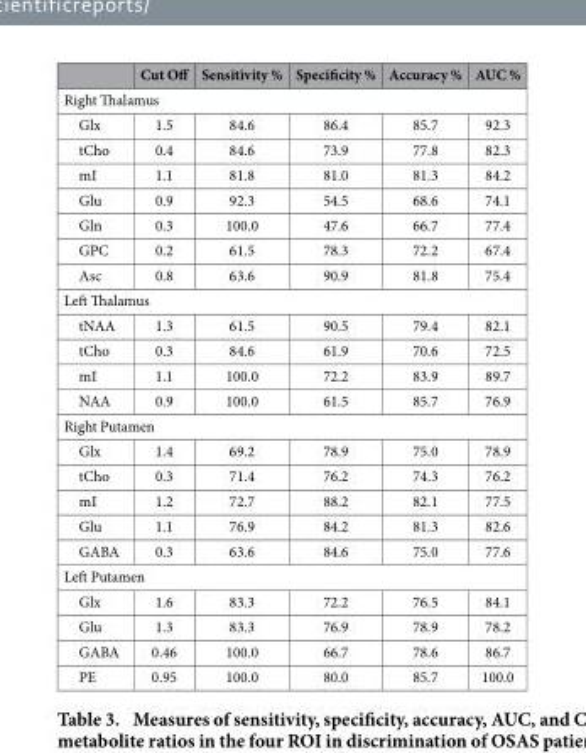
<table><thead><tr><td></td><td>Cut Off</td><td>Sensitivity %</td><td>Specificity %</td><td>Accuracy %</td><td>AUC %</td></tr></thead><tbody><tr><td colspan="6">Right Thalamus</td></tr><tr><td>Glx</td><td>1.5</td><td>84.6</td><td>86.4</td><td>85.7</td><td>92.3</td></tr><tr><td>tCho</td><td>0.4</td><td>84.6</td><td>73.9</td><td>77.8</td><td>82.3</td></tr><tr><td>mI</td><td>1.1</td><td>81.8</td><td>81.0</td><td>81.3</td><td>84.2</td></tr><tr><td>Glu</td><td>0.9</td><td>92.3</td><td>54.5</td><td>68.6</td><td>74.1</td></tr><tr><td>Gln</td><td>0.3</td><td>100.0</td><td>47.6</td><td>66.7</td><td>77.4</td></tr><tr><td>GPC</td><td>0.2</td><td>61.5</td><td>78.3</td><td>72.2</td><td>67.4</td></tr><tr><td>Asc</td><td>0.8</td><td>63.6</td><td>90.9</td><td>81.8</td><td>75.4</td></tr><tr><td colspan="6">Left Thalamus</td></tr><tr><td>tNAA</td><td>1.3</td><td>61.5</td><td>90.5</td><td>79.4</td><td>82.1</td></tr><tr><td>tCho</td><td>0.3</td><td>84.6</td><td>61.9</td><td>70.6</td><td>72.5</td></tr><tr><td>mI</td><td>1.1</td><td>100.0</td><td>72.2</td><td>83.9</td><td>89.7</td></tr><tr><td>NAA</td><td>0.9</td><td>100.0</td><td>61.5</td><td>85.7</td><td>76.9</td></tr><tr><td colspan="6">Right Putamen</td></tr><tr><td>Glx</td><td>1.4</td><td>69.2</td><td>78.9</td><td>75.0</td><td>78.9</td></tr><tr><td>tCho</td><td>0.3</td><td>71.4</td><td>76.2</td><td>74.3</td><td>76.2</td></tr><tr><td>mI</td><td>1.2</td><td>72.7</td><td>88.2</td><td>82.1</td><td>77.5</td></tr><tr><td>Glu</td><td>1.1</td><td>76.9</td><td>84.2</td><td>81.3</td><td>82.6</td></tr><tr><td>GABA</td><td>0.3</td><td>63.6</td><td>84.6</td><td>75.0</td><td>77.6</td></tr><tr><td colspan="6">Left Putamen</td></tr><tr><td>Glx</td><td>1.6</td><td>83.3</td><td>72.2</td><td>76.5</td><td>84.1</td></tr><tr><td>Glu</td><td>1.3</td><td>83.3</td><td>76.9</td><td>78.9</td><td>78.2</td></tr><tr><td>GABA</td><td>0.46</td><td>100.0</td><td>66.7</td><td>78.6</td><td>86.7</td></tr><tr><td>PE</td><td>0.95</td><td>100.0</td><td>80.0</td><td>85.7</td><td>100.0</td></tr></tbody></table>